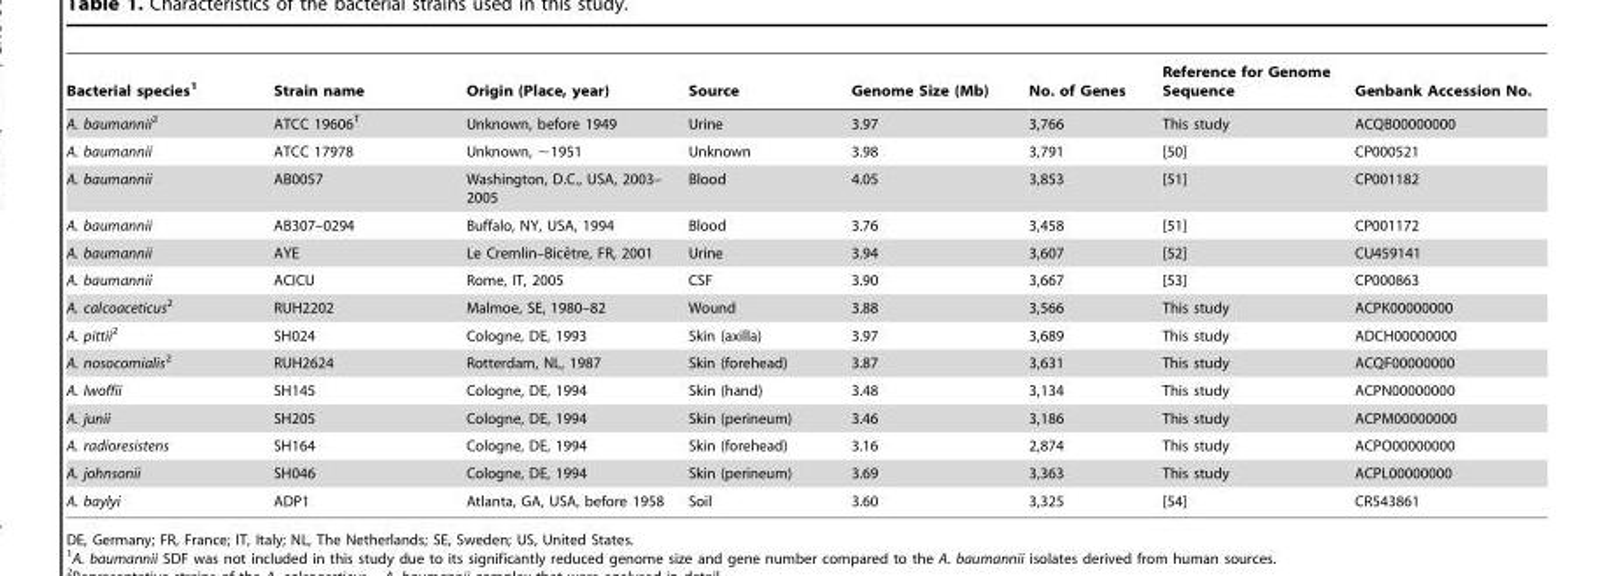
<table><thead><tr><td>Bacterial species<sup>1</sup></td><td>Strain name</td><td>Origin (Place, year)</td><td>Source</td><td>Genome Size (Mb)</td><td>No. of Genes</td><td>Reference for Genome Sequence</td><td>Genbank Accession No.</td></tr></thead><tbody><tr><td>A. baumannii2</td><td>ATCC 19606<sup>T</sup></td><td>Unknown, before 1949</td><td>Urine</td><td>3.97</td><td>3,766</td><td>This study</td><td>ACQB00000000</td></tr><tr><td>A. baumannii</td><td>ATCC 17978</td><td>Unknown, ∼1951</td><td>Unknown</td><td>3.98</td><td>3,791</td><td>[50]</td><td>CP000521</td></tr><tr><td>A. baumannii</td><td>AB0057</td><td>Washington, D.C., USA, 2003– 2005</td><td>Blood</td><td>4.05</td><td>3,853</td><td>[51]</td><td>CP001182</td></tr><tr><td>A. baumannii</td><td>AB307–0294</td><td>Buffalo, NY, USA, 1994</td><td>Blood</td><td>3.76</td><td>3,458</td><td>[51]</td><td>CP001172</td></tr><tr><td>A. baumannii</td><td>AYE</td><td>Le Cremlin–Biceˆtre, FR, 2001</td><td>Urine</td><td>3.94</td><td>3,607</td><td>[52]</td><td>CU459141</td></tr><tr><td>A. baumannii</td><td>ACICU</td><td>Rome, IT, 2005</td><td>CSF</td><td>3.90</td><td>3,667</td><td>[53]</td><td>CP000863</td></tr><tr><td>A. calcoaceticus2</td><td>RUH2202</td><td>Malmoe, SE, 1980–82</td><td>Wound</td><td>3.88</td><td>3,566</td><td>This study</td><td>ACPK00000000</td></tr><tr><td>A. pittii2</td><td>SH024</td><td>Cologne, DE, 1993</td><td>Skin (axilla)</td><td>3.97</td><td>3,689</td><td>This study</td><td>ADCH00000000</td></tr><tr><td>A. nosocomialis2</td><td>RUH2624</td><td>Rotterdam, NL, 1987</td><td>Skin (forehead)</td><td>3.87</td><td>3,631</td><td>This study</td><td>ACQF00000000</td></tr><tr><td>A. lwoffii</td><td>SH145</td><td>Cologne, DE, 1994</td><td>Skin (hand)</td><td>3.48</td><td>3,134</td><td>This study</td><td>ACPN00000000</td></tr><tr><td>A. junii</td><td>SH205</td><td>Cologne, DE, 1994</td><td>Skin (perineum)</td><td>3.46</td><td>3,186</td><td>This study</td><td>ACPM00000000</td></tr><tr><td>A. radioresistens</td><td>SH164</td><td>Cologne, DE, 1994</td><td>Skin (forehead)</td><td>3.16</td><td>2,874</td><td>This study</td><td>ACPO00000000</td></tr><tr><td>A. johnsonii</td><td>SH046</td><td>Cologne, DE, 1994</td><td>Skin (perineum)</td><td>3.69</td><td>3,363</td><td>This study</td><td>ACPL00000000</td></tr><tr><td>A. baylyi</td><td>ADP1</td><td>Atlanta, GA, USA, before 1958</td><td>Soil</td><td>3.60</td><td>3,325</td><td>[54]</td><td>CR543861</td></tr></tbody></table>